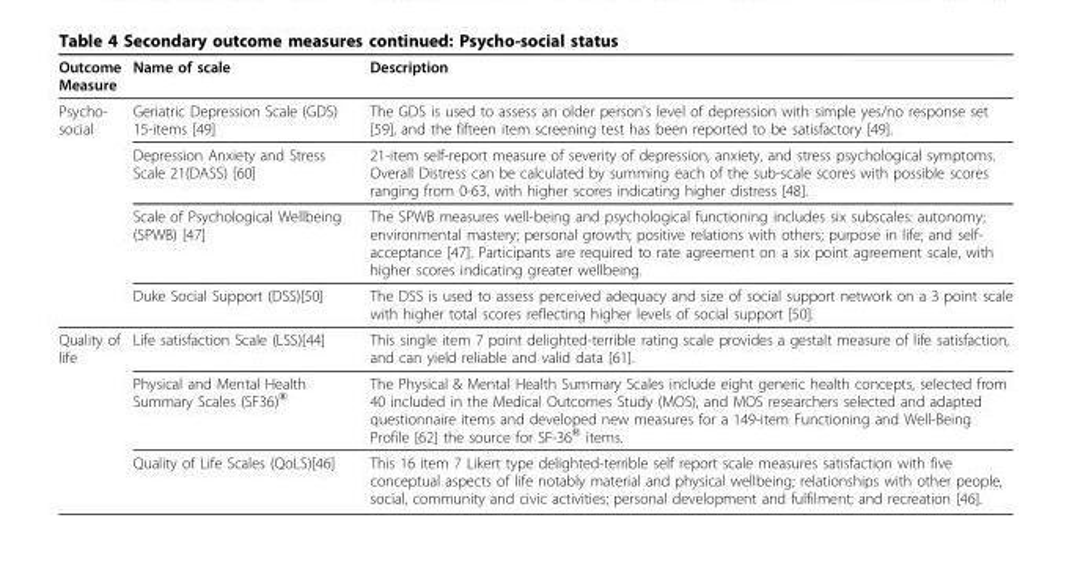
<table><thead><tr><td>Outcome Measure</td><td>Name of scale</td><td>Description</td></tr></thead><tbody><tr><td rowspan="4">Psycho- social</td><td>Geriatric Depression Scale (GDS) 15-items [49]</td><td>The GDS is used to assess an older person’s level of depression with simple yes/no response set [59], and the fifteen item screening test has been reported to be satisfactory [49].</td></tr><tr><td>Depression Anxiety and Stress Scale 21(DASS) [60]</td><td>21-item self-report measure of severity of depression, anxiety, and stress psychological symptoms. Overall Distress can be calculated by summing each of the sub-scale scores with possible scores ranging from 0-63, with higher scores indicating higher distress [48].</td></tr><tr><td>Scale of Psychological Wellbeing (SPWB) [47]</td><td>The SPWB measures well-being and psychological functioning includes six subscales: autonomy; environmental mastery; personal growth; positive relations with others; purpose in life; and self- acceptance [47]. Participants are required to rate agreement on a six point agreement scale, with higher scores indicating greater wellbeing.</td></tr><tr><td>Duke Social Support (DSS)[50]</td><td>The DSS is used to assess perceived adequacy and size of social support network on a 3 point scale with higher total scores reflecting higher levels of social support [50].</td></tr><tr><td rowspan="3">Quality of life</td><td>Life satisfaction Scale (LSS)[44]</td><td>This single item 7 point delighted-terrible rating scale provides a gestalt measure of life satisfaction, and can yield reliable and valid data [61].</td></tr><tr><td>Physical and Mental Health Summary Scales (SF36)<sup>®</sup></td><td>The Physical &amp; Mental Health Summary Scales include eight generic health concepts, selected from 40 included in the Medical Outcomes Study (MOS), and MOS researchers selected and adapted questionnaire items and developed new measures for a 149-item Functioning and Well-Being Profile [62] the source for SF-36<sup>®</sup> items.</td></tr><tr><td>Quality of Life Scales (QoLS)[46]</td><td>This 16 item 7 Likert type delighted-terrible self report scale measures satisfaction with five conceptual aspects of life notably material and physical wellbeing; relationships with other people, social, community and civic activities; personal development and fulfilment; and recreation [46].</td></tr></tbody></table>